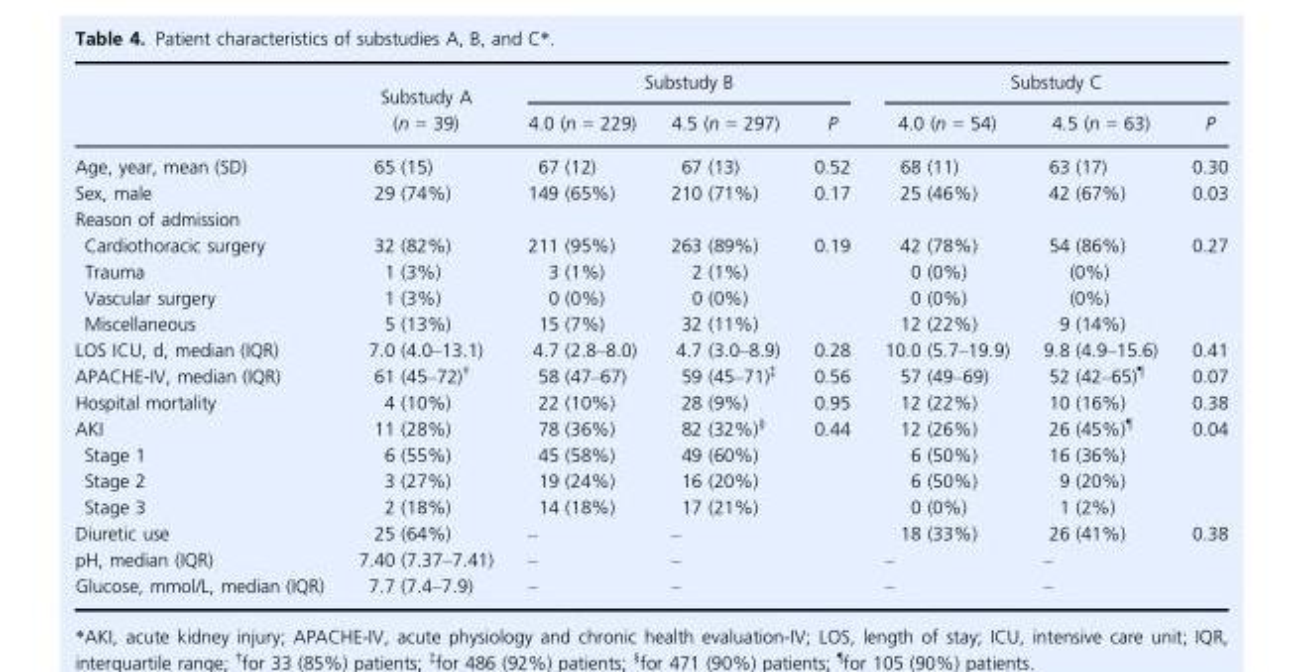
<table><thead><tr><td rowspan="2"></td><td rowspan="2">Substudy A (n = 39)</td><td colspan="3">Substudy B</td><td colspan="3">Substudy C</td></tr><tr><td>4.0 (n = 229)</td><td>4.5 (n = 297)</td><td>P</td><td>4.0 (n = 54)</td><td>4.5 (n = 63)</td><td>P</td></tr></thead><tbody><tr><td>Age, year, mean (SD)</td><td>65 (15)</td><td>67 (12)</td><td>67 (13)</td><td>0.52</td><td>68 (11)</td><td>63 (17)</td><td>0.30</td></tr><tr><td>Sex, male</td><td>29 (74%)</td><td>149 (65%)</td><td>210 (71%)</td><td>0.17</td><td>25 (46%)</td><td>42 (67%)</td><td>0.03</td></tr><tr><td colspan="8">Reason of admission</td></tr><tr><td>Cardiothoracic surgery</td><td>32 (82%)</td><td>211 (95%)</td><td>263 (89%)</td><td rowspan="4">0.19</td><td>42 (78%)</td><td>54 (86%)</td><td rowspan="4">0.27</td></tr><tr><td>Trauma</td><td>1 (3%)</td><td>3 (1%)</td><td>2 (1%)</td><td>0 (0%)</td><td>(0%)</td></tr><tr><td>Vascular surgery</td><td>1 (3%)</td><td>0 (0%)</td><td>0 (0%)</td><td>0 (0%)</td><td>(0%)</td></tr><tr><td>Miscellaneous</td><td>5 (13%)</td><td>15 (7%)</td><td>32 (11%)</td><td>12 (22%)</td><td>9 (14%)</td></tr><tr><td>LOS ICU, d, median (IQR)</td><td>7.0 (4.0–13.1)</td><td>4.7 (2.8–8.0)</td><td>4.7 (3.0–8.9)</td><td>0.28</td><td>10.0 (5.7–19.9)</td><td>9.8 (4.9–15.6)</td><td>0.41</td></tr><tr><td>APACHE-IV, median (IQR)</td><td>61 (45–72)†</td><td>58 (47–67)</td><td>59 (45–71)<sup>‡</sup></td><td>0.56</td><td>57 (49–69)</td><td>52 (42–65)¶</td><td>0.07</td></tr><tr><td>Hospital mortality</td><td>4 (10%)</td><td>22 (10%)</td><td>28 (9%)</td><td>0.95</td><td>12 (22%)</td><td>10 (16%)</td><td>0.38</td></tr><tr><td>AKI</td><td>11 (28%)</td><td>78 (36%)</td><td>82 (32%)§</td><td>0.44</td><td>12 (26%)</td><td>26 (45%)¶</td><td>0.04</td></tr><tr><td>Stage 1</td><td>6 (55%)</td><td>45 (58%)</td><td>49 (60%)</td><td></td><td>6 (50%)</td><td>16 (36%)</td><td></td></tr><tr><td>Stage 2</td><td>3 (27%)</td><td>19 (24%)</td><td>16 (20%)</td><td></td><td>6 (50%)</td><td>9 (20%)</td><td></td></tr><tr><td>Stage 3</td><td>2 (18%)</td><td>14 (18%)</td><td>17 (21%)</td><td></td><td>0 (0%)</td><td>1 (2%)</td><td></td></tr><tr><td>Diuretic use</td><td>25 (64%)</td><td>–</td><td>–</td><td></td><td>18 (33%)</td><td>26 (41%)</td><td>0.38</td></tr><tr><td>pH, median (IQR)</td><td>7.40 (7.37–7.41)</td><td>–</td><td>–</td><td></td><td>–</td><td>–</td><td></td></tr><tr><td>Glucose, mmol/L, median (IQR)</td><td>7.7 (7.4–7.9)</td><td>–</td><td>–</td><td></td><td>–</td><td>–</td><td></td></tr></tbody></table>